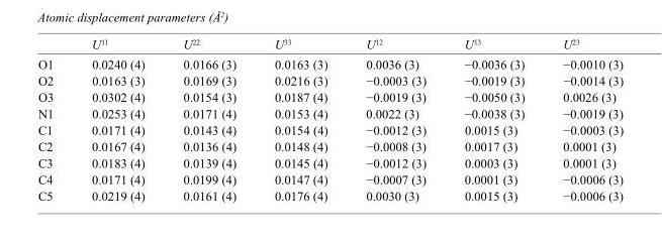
<table><thead><tr><td></td><td>U<sup>11</sup></td><td>U<sup>22</sup></td><td>U<sup>33</sup></td><td>U<sup>12</sup></td><td>U<sup>13</sup></td><td>U<sup>23</sup></td></tr></thead><tbody><tr><td>O1</td><td>0.0240 (4)</td><td>0.0166 (3)</td><td>0.0163 (3)</td><td>0.0036 (3)</td><td>−0.0036 (3)</td><td>−0.0010 (3)</td></tr><tr><td>O2</td><td>0.0163 (3)</td><td>0.0169 (3)</td><td>0.0216 (3)</td><td>−0.0003 (3)</td><td>−0.0019 (3)</td><td>−0.0014 (3)</td></tr><tr><td>O3</td><td>0.0302 (4)</td><td>0.0154 (3)</td><td>0.0187 (4)</td><td>−0.0019 (3)</td><td>−0.0050 (3)</td><td>0.0026 (3)</td></tr><tr><td>N1</td><td>0.0253 (4)</td><td>0.0171 (4)</td><td>0.0153 (4)</td><td>0.0022 (3)</td><td>−0.0038 (3)</td><td>−0.0019 (3)</td></tr><tr><td>C1</td><td>0.0171 (4)</td><td>0.0143 (4)</td><td>0.0154 (4)</td><td>−0.0012 (3)</td><td>0.0015 (3)</td><td>−0.0003 (3)</td></tr><tr><td>C2</td><td>0.0167 (4)</td><td>0.0136 (4)</td><td>0.0148 (4)</td><td>−0.0008 (3)</td><td>0.0017 (3)</td><td>0.0001 (3)</td></tr><tr><td>C3</td><td>0.0183 (4)</td><td>0.0139 (4)</td><td>0.0145 (4)</td><td>−0.0012 (3)</td><td>0.0003 (3)</td><td>0.0001 (3)</td></tr><tr><td>C4</td><td>0.0171 (4)</td><td>0.0199 (4)</td><td>0.0147 (4)</td><td>−0.0007 (3)</td><td>0.0001 (3)</td><td>−0.0006 (3)</td></tr><tr><td>C5</td><td>0.0219 (4)</td><td>0.0161 (4)</td><td>0.0176 (4)</td><td>0.0030 (3)</td><td>0.0015 (3)</td><td>−0.0006 (3)</td></tr></tbody></table>